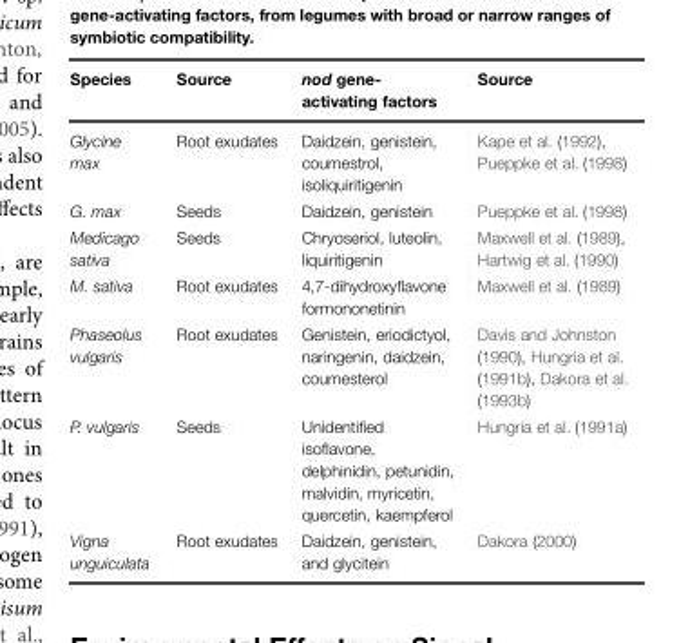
<table><thead><tr><td>Species</td><td>Source</td><td>nod gene- activating factors</td><td>Source</td></tr></thead><tbody><tr><td>Glycine max</td><td>Root exudates</td><td>Daidzein, genistein, coumestrol, isoliquiritigenin</td><td>Kape et al. (1992), Pueppke et al. (1998)</td></tr><tr><td>G. max</td><td>Seeds</td><td>Daidzein, genistein</td><td>Pueppke et al. (1998)</td></tr><tr><td>Medicago sativa</td><td>Seeds</td><td>Chryoseriol, luteolin, liquiritigenin</td><td>Maxwell et al. (1989), Hartwig et al. (1990)</td></tr><tr><td>M. sativa</td><td>Root exudates</td><td>4,7-dihydroxyflavone formononetinin</td><td>Maxwell et al. (1989)</td></tr><tr><td>Phaseolus vulgaris</td><td>Root exudates</td><td>Genistein, eriodictyol, naringenin, daidzein, coumesterol</td><td>Davis and Johnston (1990), Hungria et al. (1991b), Dakora et al. (1993b)</td></tr><tr><td>P. vulgaris</td><td>Seeds</td><td>Unidentified isoflavone, delphinidin, petunidin, malvidin, myricetin, quercetin, kaempferol</td><td>Hungria et al. (1991a)</td></tr><tr><td>Vigna unguiculata</td><td>Root exudates</td><td>Daidzein, genistein, and glycitein</td><td>Dakora (2000)</td></tr></tbody></table>